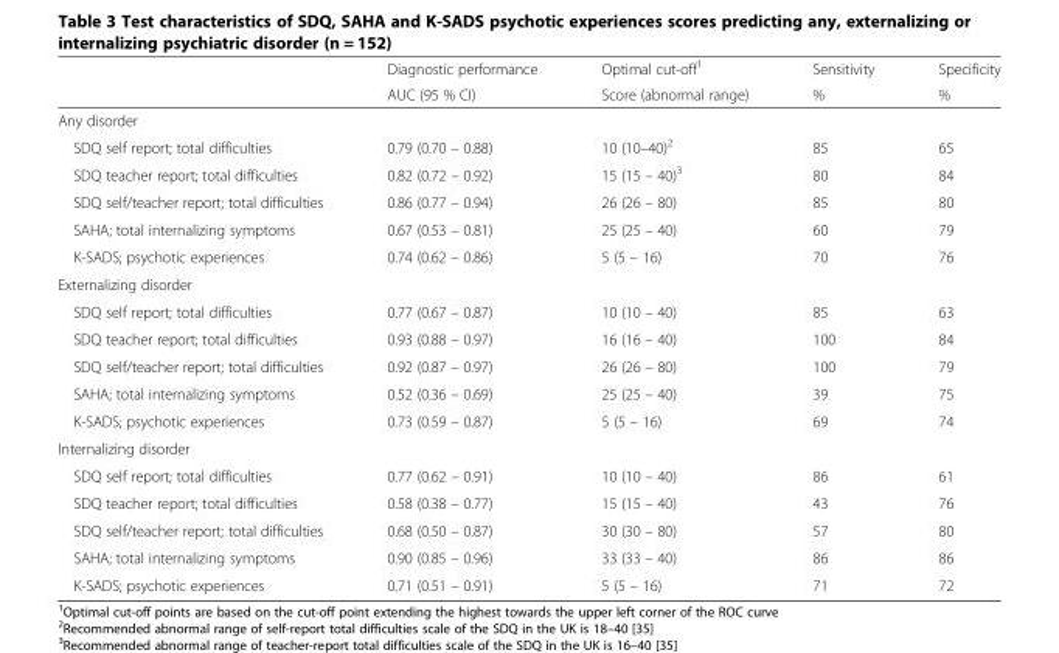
<table><thead><tr><td rowspan="2"></td><td rowspan="2">Diagnostic performance AUC (95 % CI)</td><td rowspan="2">Optimal cut-off<sup>1</sup> Score (abnormal range)</td><td rowspan="2">Sensitivity %</td><td rowspan="2">Specificity %</td></tr><tr></tr></thead><tbody><tr><td colspan="5">Any disorder</td></tr><tr><td>SDQ self report; total difficulties</td><td>0.79 (0.70 – 0.88)</td><td>10 (10–40)<sup>2</sup></td><td>85</td><td>65</td></tr><tr><td>SDQ teacher report; total difficulties</td><td>0.82 (0.72 – 0.92)</td><td>15 (15 – 40)<sup>3</sup></td><td>80</td><td>84</td></tr><tr><td>SDQ self/teacher report; total difficulties</td><td>0.86 (0.77 – 0.94)</td><td>26 (26 – 80)</td><td>85</td><td>80</td></tr><tr><td>SAHA; total internalizing symptoms</td><td>0.67 (0.53 – 0.81)</td><td>25 (25 – 40)</td><td>60</td><td>79</td></tr><tr><td>K-SADS; psychotic experiences</td><td>0.74 (0.62 – 0.86)</td><td>5 (5 – 16)</td><td>70</td><td>76</td></tr><tr><td colspan="5">Externalizing disorder</td></tr><tr><td>SDQ self report; total difficulties</td><td>0.77 (0.67 – 0.87)</td><td>10 (10 – 40)</td><td>85</td><td>63</td></tr><tr><td>SDQ teacher report; total difficulties</td><td>0.93 (0.88 – 0.97)</td><td>16 (16 – 40)</td><td>100</td><td>84</td></tr><tr><td>SDQ self/teacher report; total difficulties</td><td>0.92 (0.87 – 0.97)</td><td>26 (26 – 80)</td><td>100</td><td>79</td></tr><tr><td>SAHA; total internalizing symptoms</td><td>0.52 (0.36 – 0.69)</td><td>25 (25 – 40)</td><td>39</td><td>75</td></tr><tr><td>K-SADS; psychotic experiences</td><td>0.73 (0.59 – 0.87)</td><td>5 (5 – 16)</td><td>69</td><td>74</td></tr><tr><td colspan="5">Internalizing disorder</td></tr><tr><td>SDQ self report; total difficulties</td><td>0.77 (0.62 – 0.91)</td><td>10 (10 – 40)</td><td>86</td><td>61</td></tr><tr><td>SDQ teacher report; total difficulties</td><td>0.58 (0.38 – 0.77)</td><td>15 (15 – 40)</td><td>43</td><td>76</td></tr><tr><td>SDQ self/teacher report; total difficulties</td><td>0.68 (0.50 – 0.87)</td><td>30 (30 – 80)</td><td>57</td><td>80</td></tr><tr><td>SAHA; total internalizing symptoms</td><td>0.90 (0.85 – 0.96)</td><td>33 (33 – 40)</td><td>86</td><td>86</td></tr><tr><td>K-SADS; psychotic experiences</td><td>0.71 (0.51 – 0.91)</td><td>5 (5 – 16)</td><td>71</td><td>72</td></tr></tbody></table>